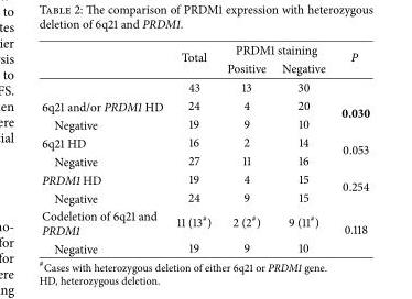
<table><thead><tr><td rowspan="2"></td><td rowspan="2">Total</td><td colspan="2">PRDM1 staining</td><td rowspan="2">P</td></tr><tr><td>Positive</td><td>Negative</td></tr></thead><tbody><tr><td></td><td>43</td><td>13</td><td>30</td><td></td></tr><tr><td>6q21 and/or PRDM1 HD</td><td>24</td><td>4</td><td>20</td><td rowspan="2">0.030</td></tr><tr><td>Negative</td><td>19</td><td>9</td><td>10</td></tr><tr><td>6q21 HD</td><td>16</td><td>2</td><td>14</td><td rowspan="2">0.053</td></tr><tr><td>Negative</td><td>27</td><td>11</td><td>16</td></tr><tr><td>PRDM1 HD</td><td>19</td><td>4</td><td>15</td><td rowspan="2">0.254</td></tr><tr><td>Negative</td><td>24</td><td>9</td><td>15</td></tr><tr><td>Codeletion of 6q21 and PRDM1</td><td>11 (13<sup>#</sup>)</td><td>2 (2<sup>#</sup>)</td><td>9 (11<sup>#</sup>)</td><td rowspan="2">0.118</td></tr><tr><td>Negative</td><td>19</td><td>9</td><td>10</td></tr></tbody></table>